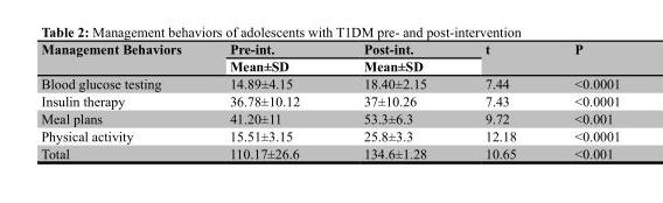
<table><thead><tr><td rowspan="2">Management Behaviors</td><td rowspan="2">Pre-int. Mean±SD</td><td rowspan="2">Post-int. Mean±SD</td><td rowspan="2">t</td><td rowspan="2">P</td></tr><tr></tr></thead><tbody><tr><td>Blood glucose testing</td><td>14.89±4.15</td><td>18.40±2.15</td><td>7.44</td><td>&lt;0.0001</td></tr><tr><td>Insulin therapy</td><td>36.78±10.12</td><td>37±10.26</td><td>7.43</td><td>&lt;0.0001</td></tr><tr><td>Meal plans</td><td>41.20±11</td><td>53.3±6.3</td><td>9.72</td><td>&lt;0.001</td></tr><tr><td>Physical activity</td><td>15.51±3.15</td><td>25.8±3.3</td><td>12.18</td><td>&lt;0.0001</td></tr><tr><td>Total</td><td>110.17±26.6</td><td>134.6±1.28</td><td>10.65</td><td>&lt;0.001</td></tr></tbody></table>